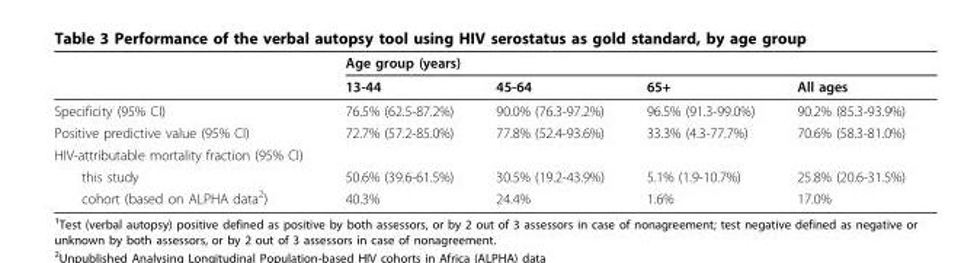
<table><thead><tr><td rowspan="2"></td><td colspan="4">Age group (years)</td></tr><tr><td>13-44</td><td>45-64</td><td>65+</td><td>All ages</td></tr></thead><tbody><tr><td>Specificity (95% CI)</td><td>76.5% (62.5-87.2%)</td><td>90.0% (76.3-97.2%)</td><td>96.5% (91.3-99.0%)</td><td>90.2% (85.3-93.9%)</td></tr><tr><td>Positive predictive value (95% CI)</td><td>72.7% (57.2-85.0%)</td><td>77.8% (52.4-93.6%)</td><td>33.3% (4.3-77.7%)</td><td>70.6% (58.3-81.0%)</td></tr><tr><td colspan="5">HIV-attributable mortality fraction (95% CI)</td></tr><tr><td>this study</td><td>50.6% (39.6-61.5%)</td><td>30.5% (19.2-43.9%)</td><td>5.1% (1.9-10.7%)</td><td>25.8% (20.6-31.5%)</td></tr><tr><td>cohort (based on ALPHA data<sup>2</sup>)</td><td>40.3%</td><td>24.4%</td><td>1.6%</td><td>17.0%</td></tr></tbody></table>